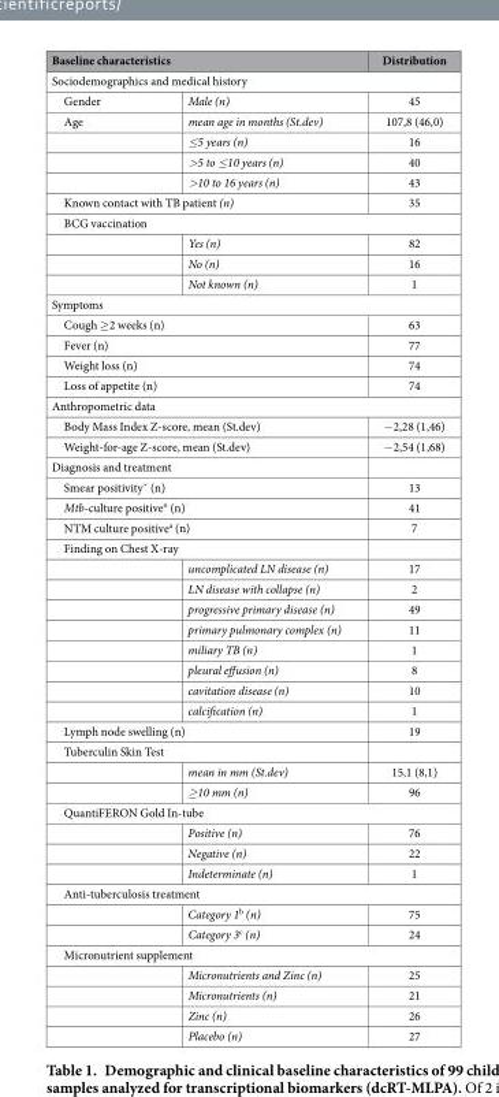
<table><thead><tr><td colspan="2">Baseline characteristics</td><td>Distribution</td></tr><tr><td colspan="3">Sociodemographics and medical history</td></tr><tr><td>Gender</td><td>Male (n)</td><td>45</td></tr></thead><tbody><tr><td rowspan="4">Age</td><td>mean age in months (St.dev)</td><td>107,8 (46,0)</td></tr><tr><td>≤5 years (n)</td><td>16</td></tr><tr><td>&gt;5 to ≤10 years (n)</td><td>40</td></tr><tr><td>&gt;10 to 16 years (n)</td><td>43</td></tr><tr><td colspan="2">Known contact with TB patient (n)</td><td>35</td></tr><tr><td colspan="3">BCG vaccination</td></tr><tr><td></td><td>Yes (n)</td><td>82</td></tr><tr><td></td><td>No (n)</td><td>16</td></tr><tr><td></td><td>Not known (n)</td><td>1</td></tr><tr><td colspan="3">Symptoms</td></tr><tr><td colspan="2">Cough ≥ 2 weeks (n)</td><td>63</td></tr><tr><td colspan="2">Fever (n)</td><td>77</td></tr><tr><td colspan="2">Weight loss (n)</td><td>74</td></tr><tr><td colspan="2">Loss of appetite (n)</td><td>74</td></tr><tr><td colspan="3">Anthropometric data</td></tr><tr><td colspan="2">Body Mass Index Z-score, mean (St.dev)</td><td>− 2,28 (1,46)</td></tr><tr><td colspan="2">Weight-for-age Z-score, mean (St.dev)</td><td>− 2,54 (1,68)</td></tr><tr><td colspan="3">Diagnosis and treatment</td></tr><tr><td colspan="2">Smear positivityˇ (n)</td><td>13</td></tr><tr><td colspan="2">Mtb-culture positive° (n)</td><td>41</td></tr><tr><td colspan="2">NTM culture positive<sup>a</sup> (n)</td><td>7</td></tr><tr><td colspan="3">Finding on Chest X-ray</td></tr><tr><td></td><td>uncomplicated LN disease (n)</td><td>17</td></tr><tr><td></td><td>LN disease with collapse (n)</td><td>2</td></tr><tr><td></td><td>progressive primary disease (n)</td><td>49</td></tr><tr><td></td><td>primary pulmonary complex (n)</td><td>11</td></tr><tr><td></td><td>miliary TB (n)</td><td>1</td></tr><tr><td></td><td>pleural effusion (n)</td><td>8</td></tr><tr><td></td><td>cavitation disease (n)</td><td>10</td></tr><tr><td></td><td>calcification (n)</td><td>1</td></tr><tr><td colspan="2">Lymph node swelling (n)</td><td>19</td></tr><tr><td colspan="3">Tuberculin Skin Test</td></tr><tr><td></td><td>mean in mm (St.dev)</td><td>15,1 (8,1)</td></tr><tr><td></td><td>≥10 mm (n)</td><td>96</td></tr><tr><td colspan="3">QuantiFERON Gold In-tube</td></tr><tr><td></td><td>Positive (n)</td><td>76</td></tr><tr><td></td><td>Negative (n)</td><td>22</td></tr><tr><td></td><td>Indeterminate (n)</td><td>1</td></tr><tr><td colspan="3">Anti-tuberculosis treatment</td></tr><tr><td></td><td>Category 1<sup>b</sup> (n)</td><td>75</td></tr><tr><td></td><td>Category 3<sup>c</sup> (n)</td><td>24</td></tr><tr><td colspan="3">Micronutrient supplement</td></tr><tr><td></td><td>Micronutrients and Zinc (n)</td><td>25</td></tr><tr><td></td><td>Micronutrients (n)</td><td>21</td></tr><tr><td></td><td>Zinc (n)</td><td>26</td></tr><tr><td></td><td>Placebo (n)</td><td>27</td></tr></tbody></table>